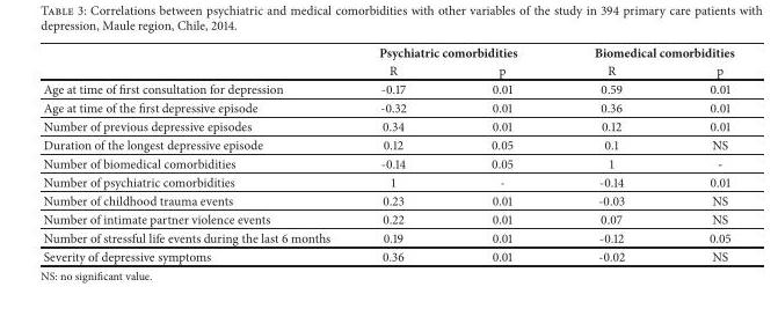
<table><thead><tr><td rowspan="2"></td><td colspan="2">Psychiatric comorbidities</td><td colspan="2">Biomedical comorbidities</td></tr><tr><td>R</td><td>p</td><td>R</td><td>p</td></tr></thead><tbody><tr><td>Age at time of first consultation for depression</td><td>-0.17</td><td>0.01</td><td>0.59</td><td>0.01</td></tr><tr><td>Age at time of the first depressive episode</td><td>-0.32</td><td>0.01</td><td>0.36</td><td>0.01</td></tr><tr><td>Number of previous depressive episodes</td><td>0.34</td><td>0.01</td><td>0.12</td><td>0.01</td></tr><tr><td>Duration of the longest depressive episode</td><td>0.12</td><td>0.05</td><td>0.1</td><td>NS</td></tr><tr><td>Number of biomedical comorbidities</td><td>-0.14</td><td>0.05</td><td>1</td><td>-</td></tr><tr><td>Number of psychiatric comorbidities</td><td>1</td><td>-</td><td>-0.14</td><td>0.01</td></tr><tr><td>Number of childhood trauma events</td><td>0.23</td><td>0.01</td><td>-0.03</td><td>NS</td></tr><tr><td>Number of intimate partner violence events</td><td>0.22</td><td>0.01</td><td>0.07</td><td>NS</td></tr><tr><td>Number of stressful life events during the last 6 months</td><td>0.19</td><td>0.01</td><td>-0.12</td><td>0.05</td></tr><tr><td>Severity of depressive symptoms</td><td>0.36</td><td>0.01</td><td>-0.02</td><td>NS</td></tr></tbody></table>